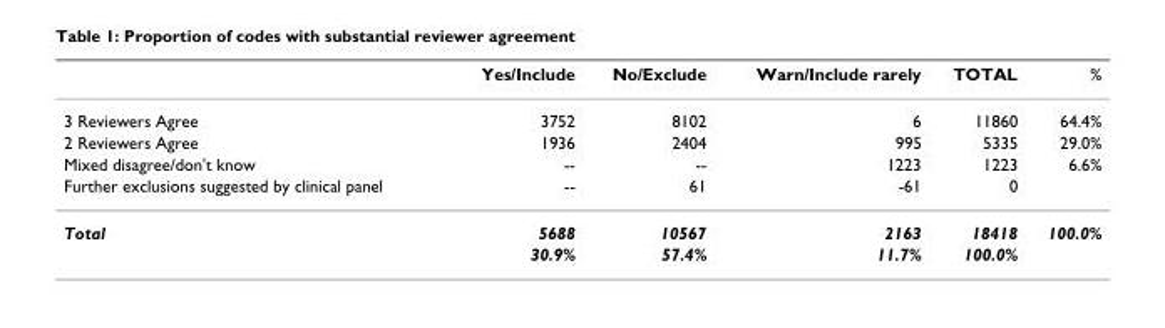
<table><thead><tr><td></td><td>Yes/Include</td><td>No/Exclude</td><td>Warn/Include rarely</td><td>TOTAL</td><td>%</td></tr></thead><tbody><tr><td>3 Reviewers Agree</td><td>3752</td><td>8102</td><td>6</td><td>11860</td><td>64.4%</td></tr><tr><td>2 Reviewers Agree</td><td>1936</td><td>2404</td><td>995</td><td>5335</td><td>29.0%</td></tr><tr><td>Mixed disagree/don&#x27;t know</td><td>--</td><td>--</td><td>1223</td><td>1223</td><td>6.6%</td></tr><tr><td>Further exclusions suggested by clinical panel</td><td>--</td><td>61</td><td>-61</td><td>0</td><td></td></tr><tr><td rowspan="2">Total</td><td>5688</td><td>10567</td><td>2163</td><td>18418</td><td>100.0%</td></tr><tr><td>30.9%</td><td>57.4%</td><td>11.7%</td><td>100.0%</td><td></td></tr></tbody></table>